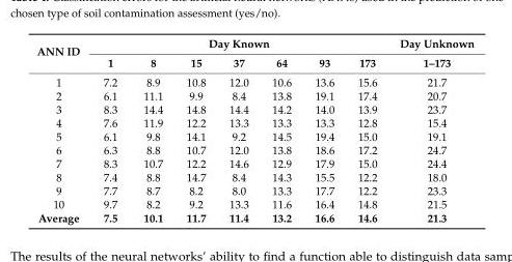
<table><thead><tr><td rowspan="2">ANN ID</td><td colspan="7">Day Known</td><td rowspan="2">Day Unknown 1–173</td></tr><tr><td>1</td><td>8</td><td>15</td><td>37</td><td>64</td><td>93</td><td>173</td></tr></thead><tbody><tr><td>1</td><td>7.2</td><td>8.9</td><td>10.8</td><td>12.0</td><td>10.6</td><td>13.6</td><td>15.6</td><td>21.7</td></tr><tr><td>2</td><td>6.1</td><td>11.1</td><td>9.9</td><td>8.4</td><td>13.8</td><td>19.1</td><td>17.4</td><td>20.7</td></tr><tr><td>3</td><td>8.3</td><td>14.4</td><td>14.8</td><td>14.4</td><td>14.2</td><td>14.0</td><td>13.9</td><td>23.7</td></tr><tr><td>4</td><td>7.6</td><td>11.9</td><td>12.2</td><td>13.3</td><td>13.3</td><td>13.3</td><td>12.8</td><td>15.4</td></tr><tr><td>5</td><td>6.1</td><td>9.8</td><td>14.1</td><td>9.2</td><td>14.5</td><td>19.4</td><td>15.0</td><td>19.1</td></tr><tr><td>6</td><td>6.3</td><td>8.8</td><td>10.7</td><td>12.0</td><td>13.8</td><td>18.6</td><td>17.2</td><td>24.7</td></tr><tr><td>7</td><td>8.3</td><td>10.7</td><td>12.2</td><td>14.6</td><td>12.9</td><td>17.9</td><td>15.0</td><td>24.4</td></tr><tr><td>8</td><td>7.4</td><td>8.8</td><td>14.7</td><td>8.4</td><td>14.3</td><td>15.5</td><td>12.2</td><td>18.0</td></tr><tr><td>9</td><td>7.7</td><td>8.7</td><td>8.2</td><td>8.0</td><td>13.3</td><td>17.7</td><td>12.2</td><td>23.3</td></tr><tr><td>10</td><td>9.7</td><td>8.2</td><td>9.2</td><td>13.3</td><td>11.6</td><td>16.4</td><td>14.8</td><td>21.5</td></tr><tr><td>Average</td><td>7.5</td><td>10.1</td><td>11.7</td><td>11.4</td><td>13.2</td><td>16.6</td><td>14.6</td><td>21.3</td></tr></tbody></table>